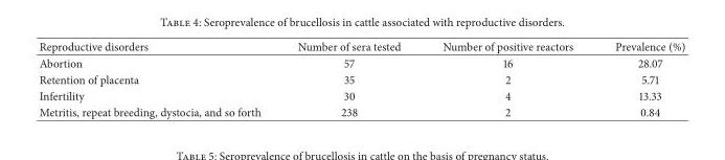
<table><thead><tr><td>Reproductive disorders</td><td>Number of sera tested</td><td>Number of positive reactors</td><td>Prevalence (%)</td></tr></thead><tbody><tr><td>Abortion</td><td>57</td><td>16</td><td>28.07</td></tr><tr><td>Retention of placenta</td><td>35</td><td>2</td><td>5.71</td></tr><tr><td>Infertility</td><td>30</td><td>4</td><td>13.33</td></tr><tr><td>Metritis, repeat breeding, dystocia, and so forth</td><td>238</td><td>2</td><td>0.84</td></tr></tbody></table>